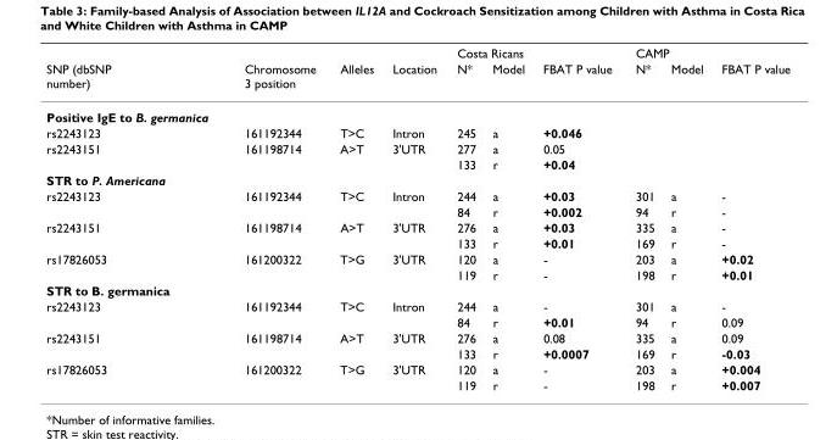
<table><thead><tr><td rowspan="2">SNP (dbSNP number)</td><td rowspan="2">Chromosome 3 position</td><td rowspan="2">Alleles</td><td rowspan="2">Location</td><td colspan="3">Costa Ricans</td><td colspan="3">CAMP</td></tr><tr><td>N*</td><td>Model</td><td>FBAT P value</td><td>N*</td><td>Model</td><td>FBAT P value</td></tr></thead><tbody><tr><td colspan="10">Positive IgE to B. germanica</td></tr><tr><td>rs2243123</td><td>161192344</td><td>T&gt;C</td><td>Intron</td><td>245</td><td>a</td><td>+0.046</td><td></td><td></td><td></td></tr><tr><td rowspan="2">rs2243151</td><td>161198714</td><td>A&gt;T</td><td>3&#x27;UTR</td><td>277</td><td>a</td><td>0.05</td><td></td><td></td><td></td></tr><tr><td></td><td></td><td></td><td>133</td><td>r</td><td>+0.04</td><td></td><td></td><td></td></tr><tr><td colspan="10">STR to P. Americana</td></tr><tr><td rowspan="2">rs2243123</td><td>161192344</td><td>T&gt;C</td><td>Intron</td><td>244</td><td>a</td><td>+0.03</td><td>301</td><td>a</td><td>-</td></tr><tr><td></td><td></td><td></td><td>84</td><td>r</td><td>+0.002</td><td>94</td><td>r</td><td>-</td></tr><tr><td rowspan="2">rs2243151</td><td>161198714</td><td>A&gt;T</td><td>3&#x27;UTR</td><td>276</td><td>a</td><td>+0.03</td><td>335</td><td>a</td><td>-</td></tr><tr><td></td><td></td><td></td><td>133</td><td>r</td><td>+0.01</td><td>169</td><td>r</td><td>-</td></tr><tr><td rowspan="2">rs17826053</td><td>161200322</td><td>T&gt;G</td><td>3&#x27;UTR</td><td>120</td><td>a</td><td>-</td><td>203</td><td>a</td><td>+0.02</td></tr><tr><td></td><td></td><td></td><td>119</td><td>r</td><td>-</td><td>198</td><td>r</td><td>+0.01</td></tr><tr><td colspan="10">STR to B. germanica</td></tr><tr><td rowspan="2">rs2243123</td><td>161192344</td><td>T&gt;C</td><td>Intron</td><td>244</td><td>a</td><td>-</td><td>301</td><td>a</td><td>-</td></tr><tr><td></td><td></td><td></td><td>84</td><td>r</td><td>+0.01</td><td>94</td><td>r</td><td>0.09</td></tr><tr><td rowspan="2">rs2243151</td><td>161198714</td><td>A&gt;T</td><td>3&#x27;UTR</td><td>276</td><td>a</td><td>0.08</td><td>335</td><td>a</td><td>0.09</td></tr><tr><td></td><td></td><td></td><td>133</td><td>r</td><td>+0.0007</td><td>169</td><td>r</td><td>-0.03</td></tr><tr><td rowspan="2">rs17826053</td><td>161200322</td><td>T&gt;G</td><td>3&#x27;UTR</td><td>120</td><td>a</td><td>-</td><td>203</td><td>a</td><td>+0.004</td></tr><tr><td></td><td></td><td></td><td>119</td><td>r</td><td>-</td><td>198</td><td>r</td><td>+0.007</td></tr></tbody></table>